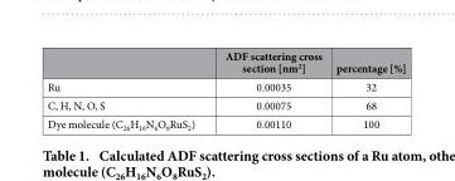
<table><thead><tr><td></td><td>ADF scattering cross section [nm<sup>2</sup>]</td><td>percentage [%]</td></tr></thead><tbody><tr><td>Ru</td><td>0.00035</td><td>32</td></tr><tr><td>C, H, N, O, S</td><td>0.00075</td><td>68</td></tr><tr><td>Dye molecule (C<sub>26</sub>H<sub>16</sub>N<sub>6</sub>O<sub>8</sub>RuS<sub>2</sub>)</td><td>0.00110</td><td>100</td></tr></tbody></table>